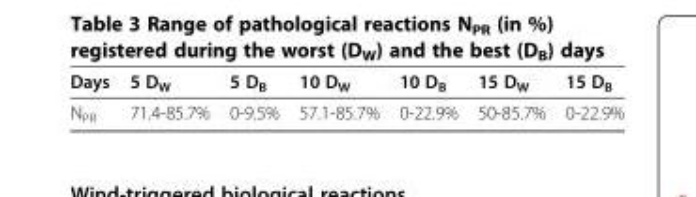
<table><thead><tr><td>Days</td><td>5 D<sub>W</sub></td><td>5 D<sub>B</sub></td><td>10 D<sub>W</sub></td><td>10 D<sub>B</sub></td><td>15 D<sub>W</sub></td><td>15 D<sub>B</sub></td></tr></thead><tbody><tr><td>N<sub>PR</sub></td><td>71.4-85.7%</td><td>0-9.5%</td><td>57.1-85.7%</td><td>0-22.9%</td><td>50-85.7%</td><td>0-22.9%</td></tr></tbody></table>